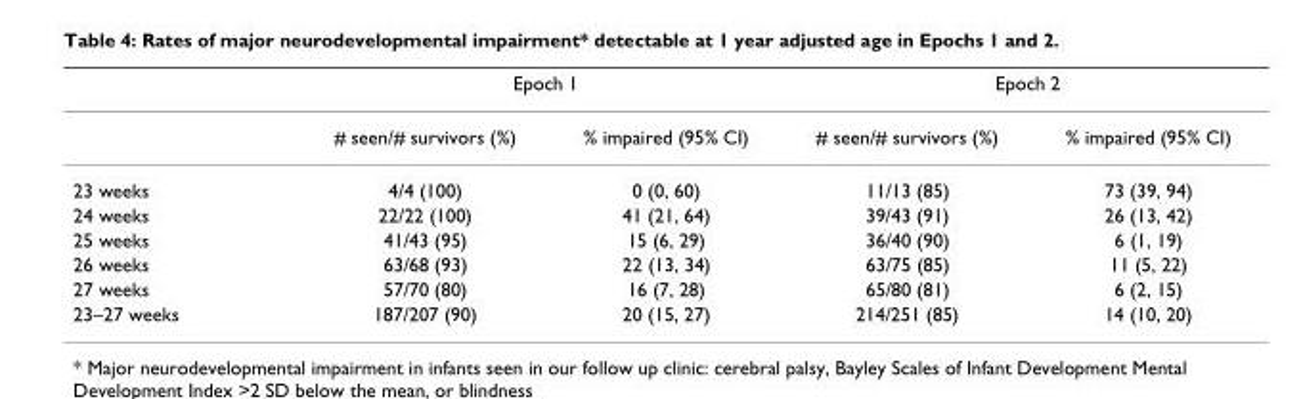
<table><thead><tr><td rowspan="2"></td><td colspan="2">Epoch 1</td><td colspan="2">Epoch 2</td></tr><tr><td># seen/# survivors (%)</td><td>% impaired (95% CI)</td><td># seen/# survivors (%)</td><td>% impaired (95% CI)</td></tr></thead><tbody><tr><td>23 weeks</td><td>4/4 (100)</td><td>0 (0, 60)</td><td>11/13 (85)</td><td>73 (39, 94)</td></tr><tr><td>24 weeks</td><td>22/22 (100)</td><td>41 (21, 64)</td><td>39/43 (91)</td><td>26 (13, 42)</td></tr><tr><td>25 weeks</td><td>41/43 (95)</td><td>15 (6, 29)</td><td>36/40 (90)</td><td>6 (1, 19)</td></tr><tr><td>26 weeks</td><td>63/68 (93)</td><td>22 (13, 34)</td><td>63/75 (85)</td><td>11 (5, 22)</td></tr><tr><td>27 weeks</td><td>57/70 (80)</td><td>16 (7, 28)</td><td>65/80 (81)</td><td>6 (2, 15)</td></tr><tr><td>23–27 weeks</td><td>187/207 (90)</td><td>20 (15, 27)</td><td>214/251 (85)</td><td>14 (10, 20)</td></tr></tbody></table>